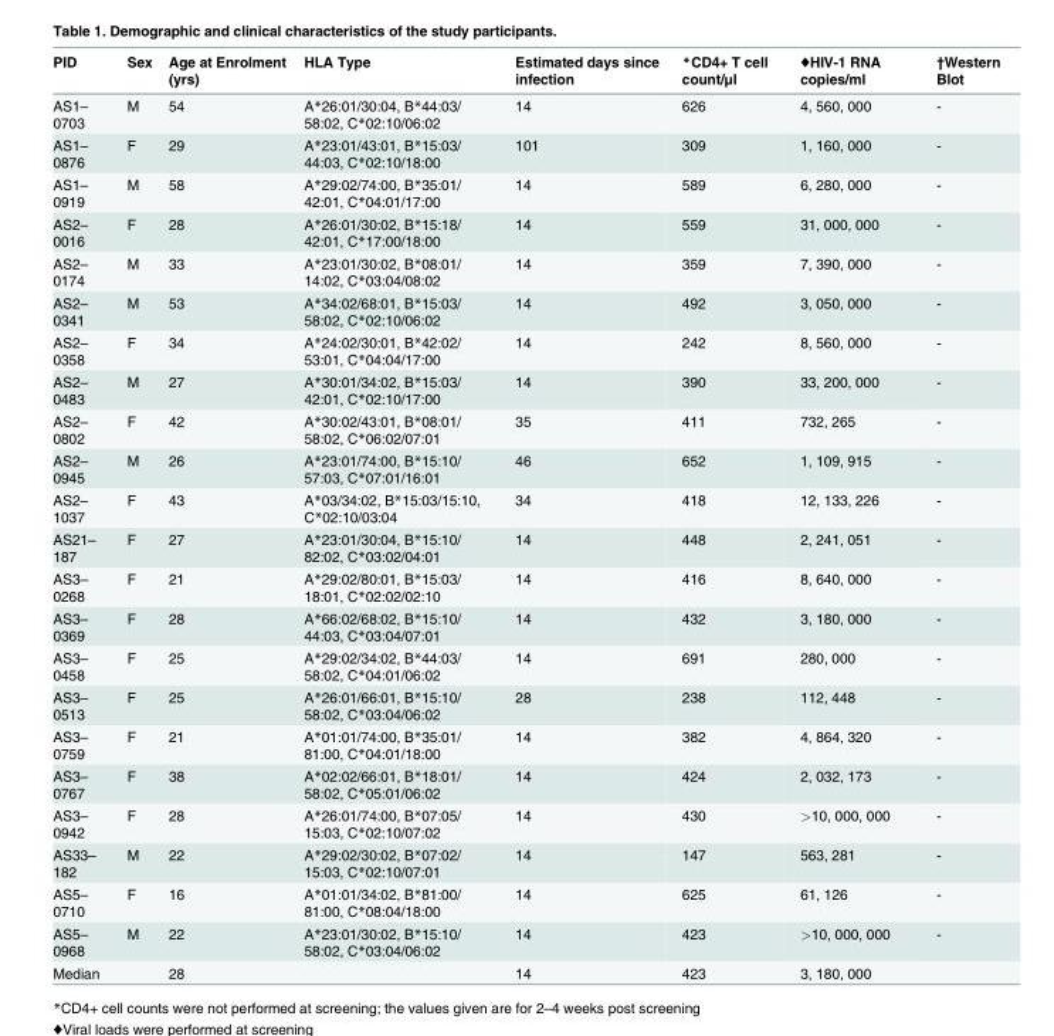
<table><thead><tr><td>PID</td><td>Sex</td><td>Age at Enrolment (yrs)</td><td>HLA Type</td><td>Estimated days since infection</td><td>*CD4+ T cell count/μl</td><td>♦HIV-1 RNA copies/ml</td><td>†Western Blot</td></tr></thead><tbody><tr><td>AS1– 0703</td><td>M</td><td>54</td><td>A*26:01/30:04, B*44:03/ 58:02, C*02:10/06:02</td><td>14</td><td>626</td><td>4, 560, 000</td><td>-</td></tr><tr><td>AS1– 0876</td><td>F</td><td>29</td><td>A*23:01/43:01, B*15:03/ 44:03, C*02:10/18:00</td><td>101</td><td>309</td><td>1, 160, 000</td><td>-</td></tr><tr><td>AS1– 0919</td><td>M</td><td>58</td><td>A*29:02/74:00, B*35:01/ 42:01, C*04:01/17:00</td><td>14</td><td>589</td><td>6, 280, 000</td><td>-</td></tr><tr><td>AS2– 0016</td><td>F</td><td>28</td><td>A*26:01/30:02, B*15:18/ 42:01, C*17:00/18:00</td><td>14</td><td>559</td><td>31, 000, 000</td><td>-</td></tr><tr><td>AS2– 0174</td><td>M</td><td>33</td><td>A*23:01/30:02, B*08:01/ 14:02, C*03:04/08:02</td><td>14</td><td>359</td><td>7, 390, 000</td><td>-</td></tr><tr><td>AS2– 0341</td><td>M</td><td>53</td><td>A*34:02/68:01, B*15:03/ 58:02, C*02:10/06:02</td><td>14</td><td>492</td><td>3, 050, 000</td><td>-</td></tr><tr><td>AS2– 0358</td><td>F</td><td>34</td><td>A*24:02/30:01, B*42:02/ 53:01, C*04:04/17:00</td><td>14</td><td>242</td><td>8, 560, 000</td><td>-</td></tr><tr><td>AS2– 0483</td><td>M</td><td>27</td><td>A*30:01/34:02, B*15:03/ 42:01, C*02:10/17:00</td><td>14</td><td>390</td><td>33, 200, 000</td><td>-</td></tr><tr><td>AS2– 0802</td><td>F</td><td>42</td><td>A*30:02/43:01, B*08:01/ 58:02, C*06:02/07:01</td><td>35</td><td>411</td><td>732, 265</td><td>-</td></tr><tr><td>AS2– 0945</td><td>M</td><td>26</td><td>A*23:01/74:00, B*15:10/ 57:03, C*07:01/16:01</td><td>46</td><td>652</td><td>1, 109, 915</td><td>-</td></tr><tr><td>AS2– 1037</td><td>F</td><td>43</td><td>A*03/34:02, B*15:03/15:10, C*02:10/03:04</td><td>34</td><td>418</td><td>12, 133, 226</td><td>-</td></tr><tr><td>AS21– 187</td><td>F</td><td>27</td><td>A*23:01/30:04, B*15:10/ 82:02, C*03:02/04:01</td><td>14</td><td>448</td><td>2, 241, 051</td><td>-</td></tr><tr><td>AS3– 0268</td><td>F</td><td>21</td><td>A*29:02/80:01, B*15:03/ 18:01, C*02:02/02:10</td><td>14</td><td>416</td><td>8, 640, 000</td><td>-</td></tr><tr><td>AS3– 0369</td><td>F</td><td>28</td><td>A*66:02/68:02, B*15:10/ 44:03, C*03:04/07:01</td><td>14</td><td>432</td><td>3, 180, 000</td><td>-</td></tr><tr><td>AS3– 0458</td><td>F</td><td>25</td><td>A*29:02/34:02, B*44:03/ 58:02, C*04:01/06:02</td><td>14</td><td>691</td><td>280, 000</td><td>-</td></tr><tr><td>AS3– 0513</td><td>F</td><td>25</td><td>A*26:01/66:01, B*15:10/ 58:02, C*03:04/06:02</td><td>28</td><td>238</td><td>112, 448</td><td>-</td></tr><tr><td>AS3– 0759</td><td>F</td><td>21</td><td>A*01:01/74:00, B*35:01/ 81:00, C*04:01/18:00</td><td>14</td><td>382</td><td>4, 864, 320</td><td>-</td></tr><tr><td>AS3– 0767</td><td>F</td><td>38</td><td>A*02:02/66:01, B*18:01/ 58:02, C*05:01/06:02</td><td>14</td><td>424</td><td>2, 032, 173</td><td>-</td></tr><tr><td>AS3– 0942</td><td>F</td><td>28</td><td>A*26:01/74:00, B*07:05/ 15:03, C*02:10/07:02</td><td>14</td><td>430</td><td>&gt;10, 000, 000</td><td>-</td></tr><tr><td>AS33– 182</td><td>M</td><td>22</td><td>A*29:02/30:02, B*07:02/ 15:03, C*02:10/07:01</td><td>14</td><td>147</td><td>563, 281</td><td>-</td></tr><tr><td>AS5– 0710</td><td>F</td><td>16</td><td>A*01:01/34:02, B*81:00/ 81:00, C*08:04/18:00</td><td>14</td><td>625</td><td>61, 126</td><td>-</td></tr><tr><td>AS5– 0968</td><td>M</td><td>22</td><td>A*23:01/30:02, B*15:10/ 58:02, C*03:04/06:02</td><td>14</td><td>423</td><td>&gt;10, 000, 000</td><td>-</td></tr><tr><td>Median</td><td></td><td>28</td><td></td><td>14</td><td>423</td><td>3, 180, 000</td><td></td></tr></tbody></table>